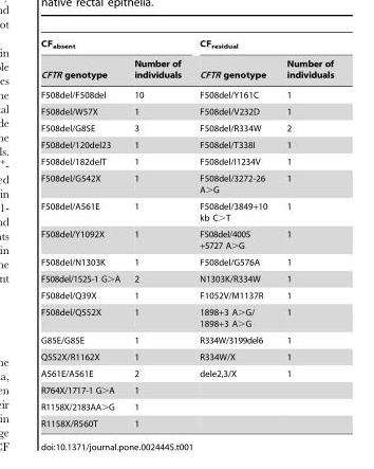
<table><thead><tr><td colspan="2">CF<sub>absent</sub></td><td colspan="2">CF<sub>residual</sub></td></tr><tr><td>CFTR genotype</td><td>Number of individuals</td><td>CFTR genotype</td><td>Number of individuals</td></tr></thead><tbody><tr><td>F508del/F508del</td><td>10</td><td>F508del/Y161C</td><td>1</td></tr><tr><td>F508del/W57X</td><td>1</td><td>F508del/V232D</td><td>1</td></tr><tr><td>F508del/G85E</td><td>3</td><td>F508del/R334W</td><td>2</td></tr><tr><td>F508del/120del23</td><td>1</td><td>F508del/T338I</td><td>1</td></tr><tr><td>F508del/182delT</td><td>1</td><td>F508del/I1234V</td><td>1</td></tr><tr><td>F508del/G542X</td><td>1</td><td>F508del/3272-26 A&gt;G</td><td>1</td></tr><tr><td>F508del/A561E</td><td>1</td><td>F508del/3849+10 kb C&gt;T</td><td>1</td></tr><tr><td>F508del/Y1092X</td><td>1</td><td>F508del/4005 +5727 A&gt;G</td><td>1</td></tr><tr><td>F508del/N1303K</td><td>1</td><td>F508del/G576A</td><td>1</td></tr><tr><td>F508del/1525-1 G&gt;A</td><td>2</td><td>N1303K/R334W</td><td>1</td></tr><tr><td>F508del/Q39X</td><td>1</td><td>F1052V/M1137R</td><td>1</td></tr><tr><td>F508del/Q552X</td><td>1</td><td>1898+3 A&gt;G/ 1898+3 A&gt;G</td><td>1</td></tr><tr><td>G85E/G85E</td><td>1</td><td>R334W/3199del6</td><td>1</td></tr><tr><td>Q552X/R1162X</td><td>1</td><td>R334W/X</td><td>1</td></tr><tr><td>A561E/A561E</td><td>2</td><td>dele2,3/X</td><td>1</td></tr><tr><td>R764X/1717-1 G&gt;A</td><td>1</td><td></td><td></td></tr><tr><td>R1158X/2183AA&gt;G</td><td>1</td><td></td><td></td></tr><tr><td>R1158X/R560T</td><td>1</td><td></td><td></td></tr></tbody></table>